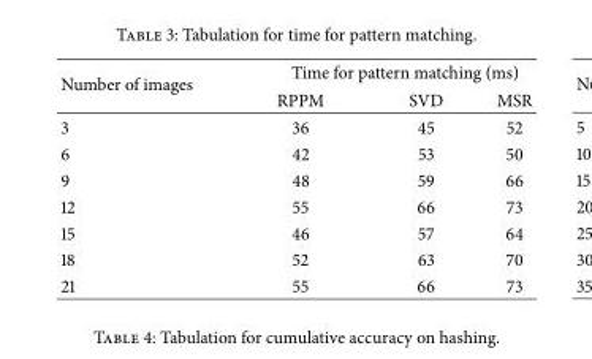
<table><thead><tr><td rowspan="2">Number of images</td><td colspan="3">Time for pattern matching (ms)</td></tr><tr><td>RPPM</td><td>SVD</td><td>MSR</td></tr></thead><tbody><tr><td>3</td><td>36</td><td>45</td><td>52</td></tr><tr><td>6</td><td>42</td><td>53</td><td>50</td></tr><tr><td>9</td><td>48</td><td>59</td><td>66</td></tr><tr><td>12</td><td>55</td><td>66</td><td>73</td></tr><tr><td>15</td><td>46</td><td>57</td><td>64</td></tr><tr><td>18</td><td>52</td><td>63</td><td>70</td></tr><tr><td>21</td><td>55</td><td>66</td><td>73</td></tr></tbody></table>